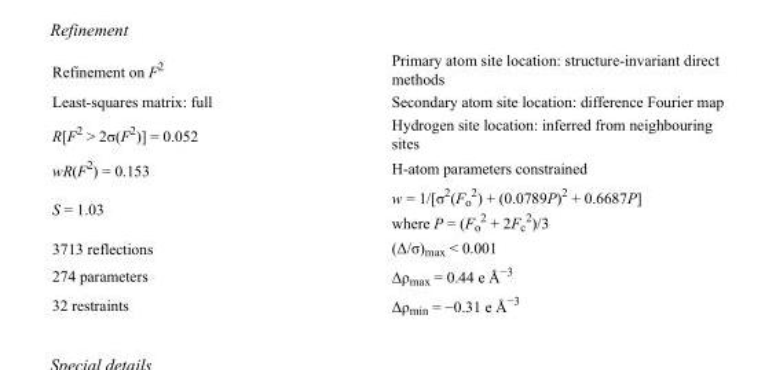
<table><tbody><tr><td>Refinement on F<sup>2</sup></td><td>Primary atom site location: structure-invariant direct methods</td></tr><tr><td>Least-squares matrix: full</td><td>Secondary atom site location: difference Fourier map</td></tr><tr><td>R[F<sup>2</sup> &gt; 2σ(F<sup>2</sup>)] = 0.052</td><td>Hydrogen site location: inferred from neighbouring sites</td></tr><tr><td>wR(F<sup>2</sup>) = 0.153</td><td>H-atom parameters constrained</td></tr><tr><td>S = 1.03</td><td>w = 1/[σ<sup>2</sup>(F<sub>o</sub> <sup>2</sup>) + (0.0789P)<sup>2</sup> + 0.6687P] where P = (F<sub>o</sub> <sup>2</sup> + 2F<sub>c</sub> <sup>2</sup>)/3</td></tr><tr><td>3713 reflections</td><td>(Δ/σ)<sub>max</sub> &lt; 0.001</td></tr><tr><td>274 parameters</td><td>Δρ<sub>max</sub> = 0.44 e Å<sup>−3</sup></td></tr><tr><td>32 restraints</td><td>Δρ<sub>min</sub> = −0.31 e Å<sup>−3</sup></td></tr></tbody></table>